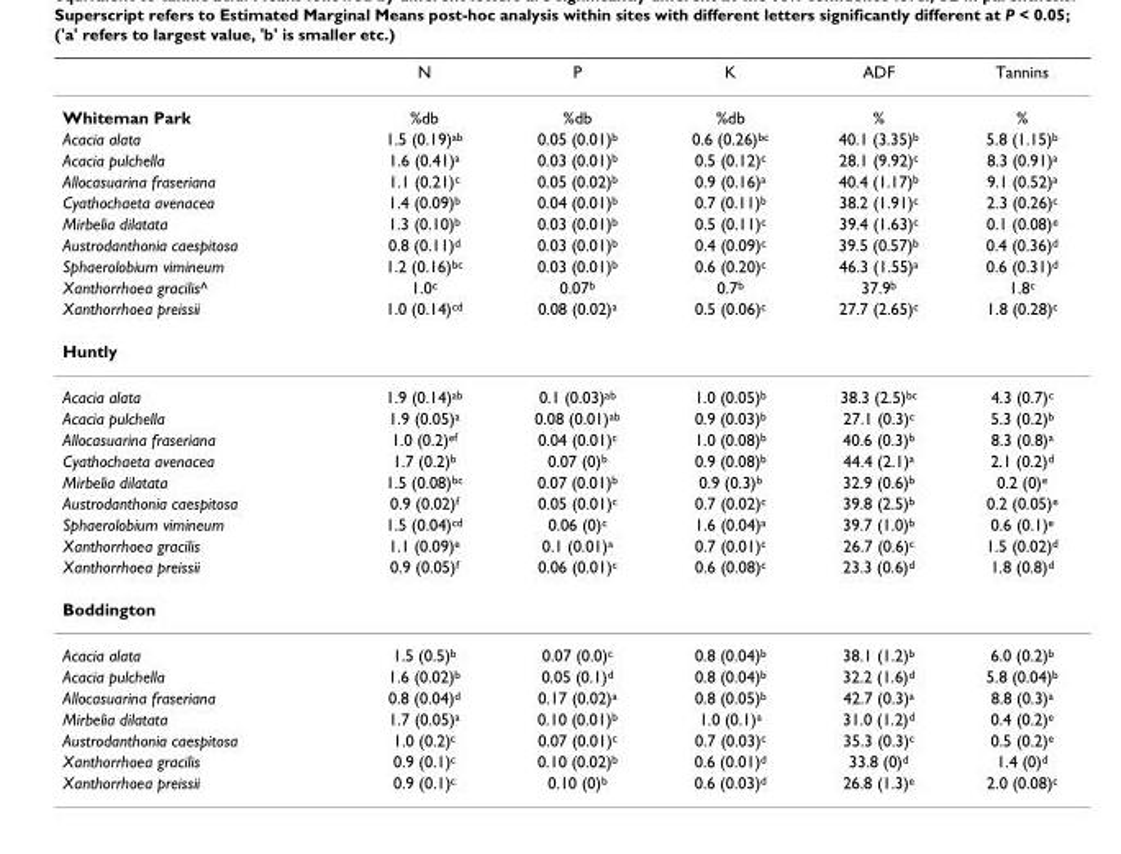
<table><thead><tr><td></td><td>N</td><td>P</td><td>K</td><td>ADF</td><td>Tannins</td></tr></thead><tbody><tr><td>Whiteman Park</td><td>%db</td><td>%db</td><td>%db</td><td>%</td><td>%</td></tr><tr><td>Acacia alata</td><td>1.5 (0.19)<sup>ab</sup></td><td>0.05 (0.01)<sup>b</sup></td><td>0.6 (0.26)<sup>bc</sup></td><td>40.1 (3.35)<sup>b</sup></td><td>5.8 (1.15)<sup>b</sup></td></tr><tr><td>Acacia pulchella</td><td>1.6 (0.41)<sup>a</sup></td><td>0.03 (0.01)<sup>b</sup></td><td>0.5 (0.12)<sup>c</sup></td><td>28.1 (9.92)<sup>c</sup></td><td>8.3 (0.91)<sup>a</sup></td></tr><tr><td>Allocasuarina fraseriana</td><td>1.1 (0.21)<sup>c</sup></td><td>0.05 (0.02)<sup>b</sup></td><td>0.9 (0.16)<sup>a</sup></td><td>40.4 (1.17)<sup>b</sup></td><td>9.1 (0.52)<sup>a</sup></td></tr><tr><td>Cyathochaeta avenacea</td><td>1.4 (0.09)<sup>b</sup></td><td>0.04 (0.01)<sup>b</sup></td><td>0.7 (0.11)<sup>b</sup></td><td>38.2 (1.91)<sup>c</sup></td><td>2.3 (0.26)<sup>c</sup></td></tr><tr><td>Mirbelia dilatata</td><td>1.3 (0.10)<sup>b</sup></td><td>0.03 (0.01)<sup>b</sup></td><td>0.5 (0.11)<sup>c</sup></td><td>39.4 (1.63)<sup>c</sup></td><td>0.1 (0.08)<sup>e</sup></td></tr><tr><td>Austrodanthonia caespitosa</td><td>0.8 (0.11)<sup>d</sup></td><td>0.03 (0.01)<sup>b</sup></td><td>0.4 (0.09)<sup>c</sup></td><td>39.5 (0.57)<sup>b</sup></td><td>0.4 (0.36)<sup>d</sup></td></tr><tr><td>Sphaerolobium vimineum</td><td>1.2 (0.16)<sup>bc</sup></td><td>0.03 (0.01)<sup>b</sup></td><td>0.6 (0.20)<sup>c</sup></td><td>46.3 (1.55)<sup>a</sup></td><td>0.6 (0.31)<sup>d</sup></td></tr><tr><td>Xanthorrhoea gracilis^</td><td>1.0<sup>c</sup></td><td>0.07<sup>b</sup></td><td>0.7<sup>b</sup></td><td>37.9<sup>b</sup></td><td>1.8<sup>c</sup></td></tr><tr><td>Xanthorrhoea preissii</td><td>1.0 (0.14)<sup>cd</sup></td><td>0.08 (0.02)<sup>a</sup></td><td>0.5 (0.06)<sup>c</sup></td><td>27.7 (2.65)<sup>c</sup></td><td>1.8 (0.28)<sup>c</sup></td></tr><tr><td colspan="6">Huntly</td></tr><tr><td>Acacia alata</td><td>1.9 (0.14)<sup>ab</sup></td><td>0.1 (0.03)<sup>ab</sup></td><td>1.0 (0.05)<sup>b</sup></td><td>38.3 (2.5)<sup>bc</sup></td><td>4.3 (0.7)<sup>c</sup></td></tr><tr><td>Acacia pulchella</td><td>1.9 (0.05)<sup>a</sup></td><td>0.08 (0.01)<sup>ab</sup></td><td>0.9 (0.03)<sup>b</sup></td><td>27.1 (0.3)<sup>c</sup></td><td>5.3 (0.2)<sup>b</sup></td></tr><tr><td>Allocasuarina fraseriana</td><td>1.0 (0.2)<sup>ef</sup></td><td>0.04 (0.01)<sup>c</sup></td><td>1.0 (0.08)<sup>b</sup></td><td>40.6 (0.3)<sup>b</sup></td><td>8.3 (0.8)<sup>a</sup></td></tr><tr><td>Cyathochaeta avenacea</td><td>1.7 (0.2)<sup>b</sup></td><td>0.07 (0)<sup>b</sup></td><td>0.9 (0.08)<sup>b</sup></td><td>44.4 (2.1)<sup>a</sup></td><td>2.1 (0.2)<sup>d</sup></td></tr><tr><td>Mirbelia dilatata</td><td>1.5 (0.08)<sup>bc</sup></td><td>0.07 (0.01)<sup>b</sup></td><td>0.9 (0.3)<sup>b</sup></td><td>32.9 (0.6)<sup>b</sup></td><td>0.2 (0)<sup>e</sup></td></tr><tr><td>Austrodanthonia caespitosa</td><td>0.9 (0.02)<sup>f</sup></td><td>0.05 (0.01)<sup>c</sup></td><td>0.7 (0.02)<sup>c</sup></td><td>39.8 (2.5)<sup>b</sup></td><td>0.2 (0.05)<sup>e</sup></td></tr><tr><td>Sphaerolobium vimineum</td><td>1.5 (0.04)<sup>cd</sup></td><td>0.06 (0)<sup>c</sup></td><td>1.6 (0.04)<sup>a</sup></td><td>39.7 (1.0)<sup>b</sup></td><td>0.6 (0.1)<sup>e</sup></td></tr><tr><td>Xanthorrhoea gracilis</td><td>1.1 (0.09)<sup>e</sup></td><td>0.1 (0.01)<sup>a</sup></td><td>0.7 (0.01)<sup>c</sup></td><td>26.7 (0.6)<sup>c</sup></td><td>1.5 (0.02)<sup>d</sup></td></tr><tr><td>Xanthorrhoea preissii</td><td>0.9 (0.05)<sup>f</sup></td><td>0.06 (0.01)<sup>c</sup></td><td>0.6 (0.08)<sup>c</sup></td><td>23.3 (0.6)<sup>d</sup></td><td>1.8 (0.8)<sup>d</sup></td></tr><tr><td colspan="6">Boddington</td></tr><tr><td>Acacia alata</td><td>1.5 (0.5)<sup>b</sup></td><td>0.07 (0.0)<sup>c</sup></td><td>0.8 (0.04)<sup>b</sup></td><td>38.1 (1.2)<sup>b</sup></td><td>6.0 (0.2)<sup>b</sup></td></tr><tr><td>Acacia pulchella</td><td>1.6 (0.02)<sup>b</sup></td><td>0.05 (0.1)<sup>d</sup></td><td>0.8 (0.04)<sup>b</sup></td><td>32.2 (1.6)<sup>d</sup></td><td>5.8 (0.04)<sup>b</sup></td></tr><tr><td>Allocasuarina fraseriana</td><td>0.8 (0.04)<sup>d</sup></td><td>0.17 (0.02)<sup>a</sup></td><td>0.8 (0.05)<sup>b</sup></td><td>42.7 (0.3)<sup>a</sup></td><td>8.8 (0.3)<sup>a</sup></td></tr><tr><td>Mirbelia dilatata</td><td>1.7 (0.05)<sup>a</sup></td><td>0.10 (0.01)<sup>b</sup></td><td>1.0 (0.1)<sup>a</sup></td><td>31.0 (1.2)<sup>d</sup></td><td>0.4 (0.2)<sup>e</sup></td></tr><tr><td>Austrodanthonia caespitosa</td><td>1.0 (0.2)<sup>c</sup></td><td>0.07 (0.01)<sup>c</sup></td><td>0.7 (0.03)<sup>c</sup></td><td>35.3 (0.3)<sup>c</sup></td><td>0.5 (0.2)<sup>e</sup></td></tr><tr><td>Xanthorrhoea gracilis</td><td>0.9 (0.1)<sup>c</sup></td><td>0.10 (0.02)<sup>b</sup></td><td>0.6 (0.01)<sup>d</sup></td><td>33.8 (0)<sup>d</sup></td><td>1.4 (0)<sup>d</sup></td></tr><tr><td>Xanthorrhoea preissii</td><td>0.9 (0.1)<sup>c</sup></td><td>0.10 (0)<sup>b</sup></td><td>0.6 (0.03)<sup>d</sup></td><td>26.8 (1.3)<sup>e</sup></td><td>2.0 (0.08)<sup>c</sup></td></tr></tbody></table>